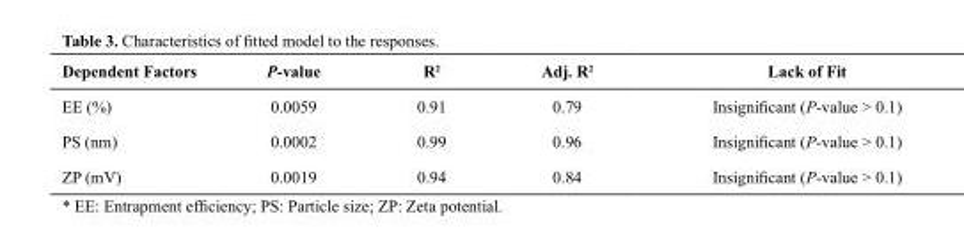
<table><thead><tr><td>Dependent Factors</td><td>P-value</td><td>R<sup>2</sup></td><td>Adj. R<sup>2</sup></td><td>Lack of Fit</td></tr></thead><tbody><tr><td>EE (%)</td><td>0.0059</td><td>0.91</td><td>0.79</td><td>Insignificant (P-value &gt; 0.1)</td></tr><tr><td>PS (nm)</td><td>0.0002</td><td>0.99</td><td>0.96</td><td>Insignificant (P-value &gt; 0.1)</td></tr><tr><td>ZP (mV)</td><td>0.0019</td><td>0.94</td><td>0.84</td><td>Insignificant (P-value &gt; 0.1)</td></tr></tbody></table>